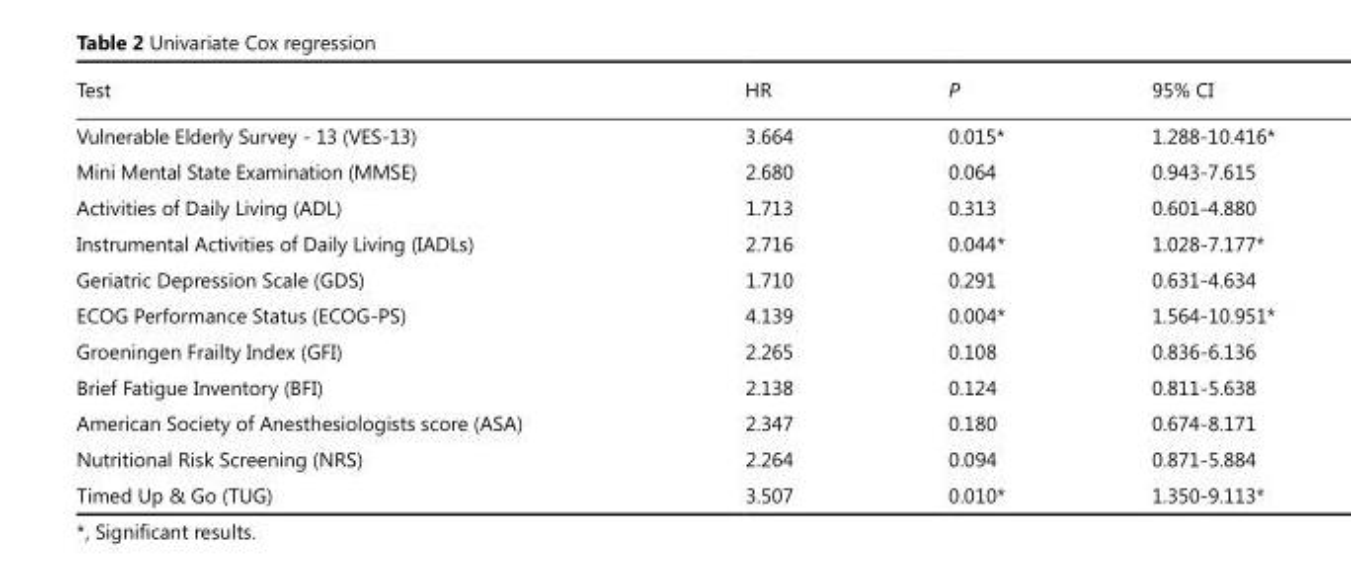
<table><thead><tr><td>Test</td><td>HR</td><td>P</td><td>95% CI</td></tr></thead><tbody><tr><td>Vulnerable Elderly Survey - 13 (VES-13)</td><td>3.664</td><td>0.015*</td><td>1.288-10.416*</td></tr><tr><td>Mini Mental State Examination (MMSE)</td><td>2.680</td><td>0.064</td><td>0.943-7.615</td></tr><tr><td>Activities of Daily Living (ADL)</td><td>1.713</td><td>0.313</td><td>0.601-4.880</td></tr><tr><td>Instrumental Activities of Daily Living (IADLs)</td><td>2.716</td><td>0.044*</td><td>1.028-7.177*</td></tr><tr><td>Geriatric Depression Scale (GDS)</td><td>1.710</td><td>0.291</td><td>0.631-4.634</td></tr><tr><td>ECOG Performance Status (ECOG-PS)</td><td>4.139</td><td>0.004*</td><td>1.564-10.951*</td></tr><tr><td>Groeningen Frailty Index (GFI)</td><td>2.265</td><td>0.108</td><td>0.836-6.136</td></tr><tr><td>Brief Fatigue Inventory (BFI)</td><td>2.138</td><td>0.124</td><td>0.811-5.638</td></tr><tr><td>American Society of Anesthesiologists score (ASA)</td><td>2.347</td><td>0.180</td><td>0.674-8.171</td></tr><tr><td>Nutritional Risk Screening (NRS)</td><td>2.264</td><td>0.094</td><td>0.871-5.884</td></tr><tr><td>Timed Up &amp; Go (TUG)</td><td>3.507</td><td>0.010*</td><td>1.350-9.113*</td></tr></tbody></table>